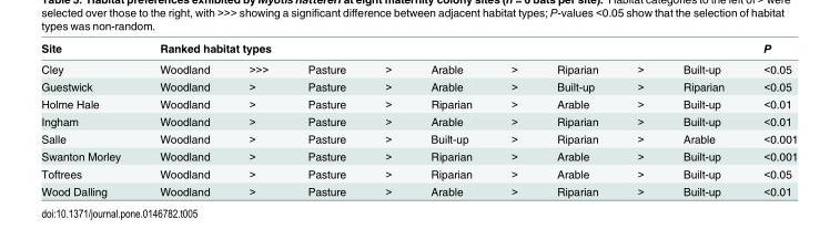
<table><thead><tr><td rowspan="2">Site Cley</td><td colspan="4">Ranked habitat types</td><td rowspan="2">Arable</td><td rowspan="2">&gt;</td><td rowspan="2">Riparian</td><td rowspan="2">&gt;</td><td rowspan="2">Built-up</td><td rowspan="2">P &lt;0.05</td></tr><tr><td>Woodland</td><td>&gt;&gt;&gt;</td><td>Pasture</td><td>&gt;</td></tr></thead><tbody><tr><td>Guestwick</td><td>Woodland</td><td>&gt;</td><td>Pasture</td><td>&gt;</td><td>Arable</td><td>&gt;</td><td>Built-up</td><td>&gt;</td><td>Riparian</td><td>&lt;0.05</td></tr><tr><td>Holme Hale</td><td>Woodland</td><td>&gt;</td><td>Pasture</td><td>&gt;</td><td>Riparian</td><td>&gt;</td><td>Arable</td><td>&gt;</td><td>Built-up</td><td>&lt;0.01</td></tr><tr><td>Ingham</td><td>Woodland</td><td>&gt;</td><td>Pasture</td><td>&gt;</td><td>Arable</td><td>&gt;</td><td>Riparian</td><td>&gt;</td><td>Built-up</td><td>&lt;0.01</td></tr><tr><td>Salle</td><td>Woodland</td><td>&gt;</td><td>Pasture</td><td>&gt;</td><td>Built-up</td><td>&gt;</td><td>Riparian</td><td>&gt;</td><td>Arable</td><td>&lt;0.001</td></tr><tr><td>Swanton Morley</td><td>Woodland</td><td>&gt;</td><td>Pasture</td><td>&gt;</td><td>Riparian</td><td>&gt;</td><td>Arable</td><td>&gt;</td><td>Built-up</td><td>&lt;0.001</td></tr><tr><td>Toftrees</td><td>Woodland</td><td>&gt;</td><td>Pasture</td><td>&gt;</td><td>Riparian</td><td>&gt;</td><td>Arable</td><td>&gt;</td><td>Built-up</td><td>&lt;0.05</td></tr><tr><td>Wood Dalling</td><td>Woodland</td><td>&gt;</td><td>Pasture</td><td>&gt;</td><td>Arable</td><td>&gt;</td><td>Riparian</td><td>&gt;</td><td>Built-up</td><td>&lt;0.01</td></tr></tbody></table>